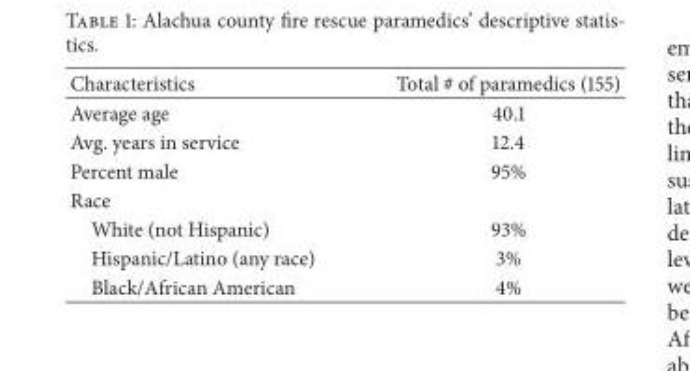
<table><thead><tr><td>Characteristics</td><td>Total # of paramedics (155)</td></tr></thead><tbody><tr><td>Average age</td><td>40.1</td></tr><tr><td>Avg. years in service</td><td>12.4</td></tr><tr><td>Percent male</td><td>95%</td></tr><tr><td colspan="2">Race</td></tr><tr><td>White (not Hispanic)</td><td>93%</td></tr><tr><td>Hispanic/Latino (any race)</td><td>3%</td></tr><tr><td>Black/African American</td><td>4%</td></tr></tbody></table>